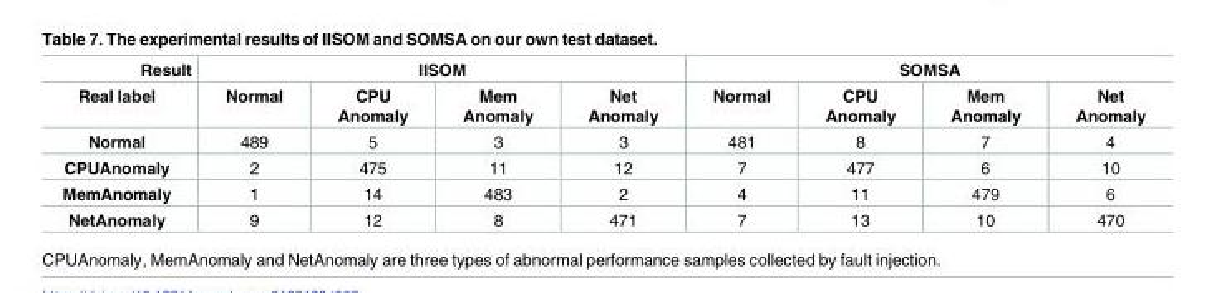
<table><thead><tr><td rowspan="2">Result Real label</td><td colspan="4">IISOM</td><td colspan="4">SOMSA</td></tr><tr><td>Normal</td><td>CPU Anomaly</td><td>Mem Anomaly</td><td>Net Anomaly</td><td>Normal</td><td>CPU Anomaly</td><td>Mem Anomaly</td><td>Net Anomaly</td></tr></thead><tbody><tr><td>Normal</td><td>489</td><td>5</td><td>3</td><td>3</td><td>481</td><td>8</td><td>7</td><td>4</td></tr><tr><td>CPUAnomaly</td><td>2</td><td>475</td><td>11</td><td>12</td><td>7</td><td>477</td><td>6</td><td>10</td></tr><tr><td>MemAnomaly</td><td>1</td><td>14</td><td>483</td><td>2</td><td>4</td><td>11</td><td>479</td><td>6</td></tr><tr><td>NetAnomaly</td><td>9</td><td>12</td><td>8</td><td>471</td><td>7</td><td>13</td><td>10</td><td>470</td></tr></tbody></table>